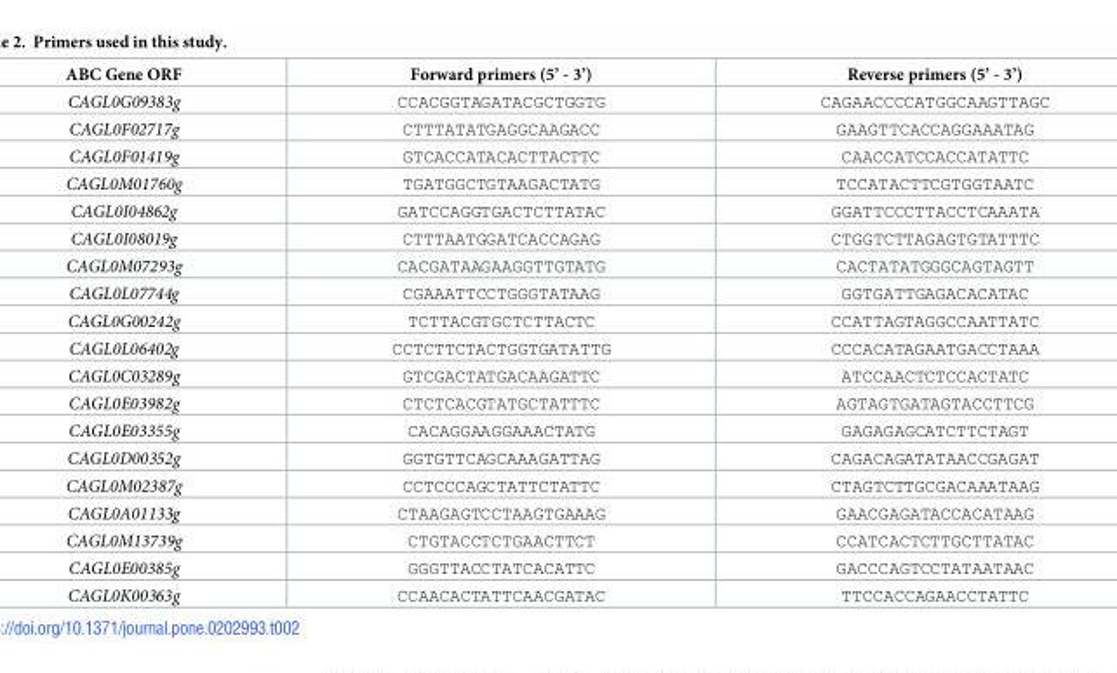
<table><thead><tr><td>ABC Gene ORF</td><td>Forward primers (5’ - 3’)</td><td>Reverse primers (5’ - 3’)</td></tr></thead><tbody><tr><td>CAGL0G09383g</td><td>CCACGGTAGATACGCTGGTG</td><td>CAGAACCCCATGGCAAGTTAGC</td></tr><tr><td>CAGL0F02717g</td><td>CTTTATATGAGGCAAGACC</td><td>GAAGTTCACCAGGAAATAG</td></tr><tr><td>CAGL0F01419g</td><td>GTCACCATACACTTACTTC</td><td>CAACCATCCACCATATTC</td></tr><tr><td>CAGL0M01760g</td><td>TGATGGCTGTAAGACTATG</td><td>TCCATACTTCGTGGTAATC</td></tr><tr><td>CAGL0I04862g</td><td>GATCCAGGTGACTCTTATAC</td><td>GGATTCCCTTACCTCAAATA</td></tr><tr><td>CAGL0I08019g</td><td>CTTTAATGGATCACCAGAG</td><td>CTGGTCTTAGAGTGTATTTC</td></tr><tr><td>CAGL0M07293g</td><td>CACGATAAGAAGGTTGTATG</td><td>CACTATATGGGCAGTAGTT</td></tr><tr><td>CAGL0L07744g</td><td>CGAAATTCCTGGGTATAAG</td><td>GGTGATTGAGACACATAC</td></tr><tr><td>CAGL0G00242g</td><td>TCTTACGTGCTCTTACTC</td><td>CCATTAGTAGGCCAATTATC</td></tr><tr><td>CAGL0L06402g</td><td>CCTCTTCTACTGGTGATATTG</td><td>CCCACATAGAATGACCTAAA</td></tr><tr><td>CAGL0C03289g</td><td>GTCGACTATGACAAGATTC</td><td>ATCCAACTCTCCACTATC</td></tr><tr><td>CAGL0E03982g</td><td>CTCTCACGTATGCTATTTC</td><td>AGTAGTGATAGTACCTTCG</td></tr><tr><td>CAGL0E03355g</td><td>CACAGGAAGGAAACTATG</td><td>GAGAGAGCATCTTCTAGT</td></tr><tr><td>CAGL0D00352g</td><td>GGTGTTCAGCAAAGATTAG</td><td>CAGACAGATATAACCGAGAT</td></tr><tr><td>CAGL0M02387g</td><td>CCTCCCAGCTATTCTATTC</td><td>CTAGTCTTGCGACAAATAAG</td></tr><tr><td>CAGL0A01133g</td><td>CTAAGAGTCCTAAGTGAAAG</td><td>GAACGAGATACCACATAAG</td></tr><tr><td>CAGL0M13739g</td><td>CTGTACCTCTGAACTTCT</td><td>CCATCACTCTTGCTTATAC</td></tr><tr><td>CAGL0E00385g</td><td>GGGTTACCTATCACATTC</td><td>GACCCAGTCCTATAATAAC</td></tr><tr><td>CAGL0K00363g</td><td>CCAACACTATTCAACGATAC</td><td>TTCCACCAGAACCTATTC</td></tr></tbody></table>